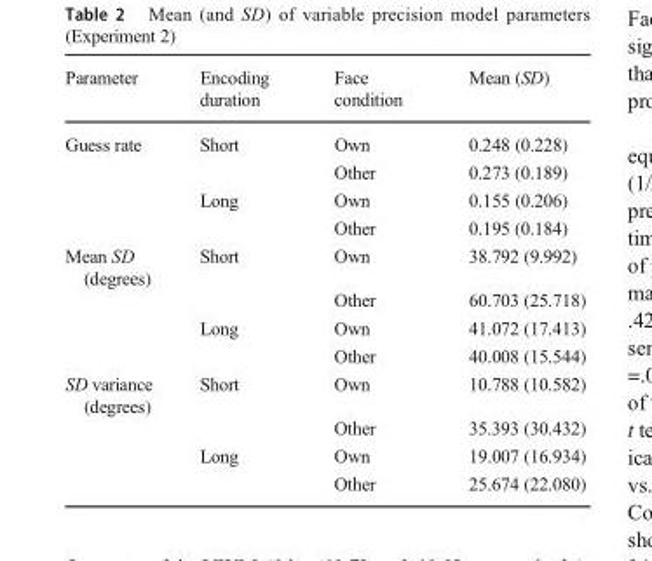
<table><thead><tr><td>Parameter</td><td>Encoding duration</td><td>Face condition</td><td>Mean (SD)</td></tr></thead><tbody><tr><td rowspan="4">Guess rate</td><td>Short</td><td>Own</td><td>0.248 (0.228)</td></tr><tr><td></td><td>Other</td><td>0.273 (0.189)</td></tr><tr><td>Long</td><td>Own</td><td>0.155 (0.206)</td></tr><tr><td></td><td>Other</td><td>0.195 (0.184)</td></tr><tr><td rowspan="4">Mean SD (degrees)</td><td>Short</td><td>Own</td><td>38.792 (9.992)</td></tr><tr><td></td><td>Other</td><td>60.703 (25.718)</td></tr><tr><td>Long</td><td>Own</td><td>41.072 (17.413)</td></tr><tr><td></td><td>Other</td><td>40.008 (15.544)</td></tr><tr><td rowspan="4">SD variance (degrees)</td><td>Short</td><td>Own</td><td>10.788 (10.582)</td></tr><tr><td></td><td>Other</td><td>35.393 (30.432)</td></tr><tr><td>Long</td><td>Own</td><td>19.007 (16.934)</td></tr><tr><td></td><td>Other</td><td>25.674 (22.080)</td></tr></tbody></table>